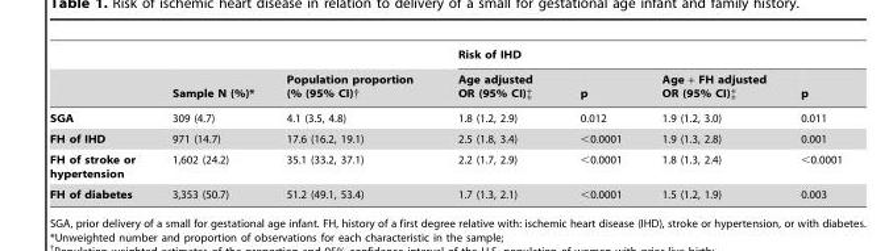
<table><thead><tr><td rowspan="2"></td><td rowspan="2">Sample N (%)*</td><td rowspan="2">Population proportion (% (95% CI)†</td><td colspan="4">Risk of IHD</td></tr><tr><td>Age adjusted OR (95% CI)‡</td><td>p</td><td>Age + FH adjusted OR (95% CI)‡</td><td>p</td></tr></thead><tbody><tr><td>SGA</td><td>309 (4.7)</td><td>4.1 (3.5, 4.8)</td><td>1.8 (1.2, 2.9)</td><td>0.012</td><td>1.9 (1.2, 3.0)</td><td>0.011</td></tr><tr><td>FH of IHD</td><td>971 (14.7)</td><td>17.6 (16.2, 19.1)</td><td>2.5 (1.8, 3.4)</td><td>&lt;0.0001</td><td>1.9 (1.3, 2.8)</td><td>0.001</td></tr><tr><td>FH of stroke or hypertension</td><td>1,602 (24.2)</td><td>35.1 (33.2, 37.1)</td><td>2.2 (1.7, 2.9)</td><td>&lt;0.0001</td><td>1.8 (1.3, 2.4)</td><td>&lt;0.0001</td></tr><tr><td>FH of diabetes</td><td>3,353 (50.7)</td><td>51.2 (49.1, 53.4)</td><td>1.7 (1.3, 2.1)</td><td>&lt;0.0001</td><td>1.5 (1.2, 1.9)</td><td>0.003</td></tr></tbody></table>